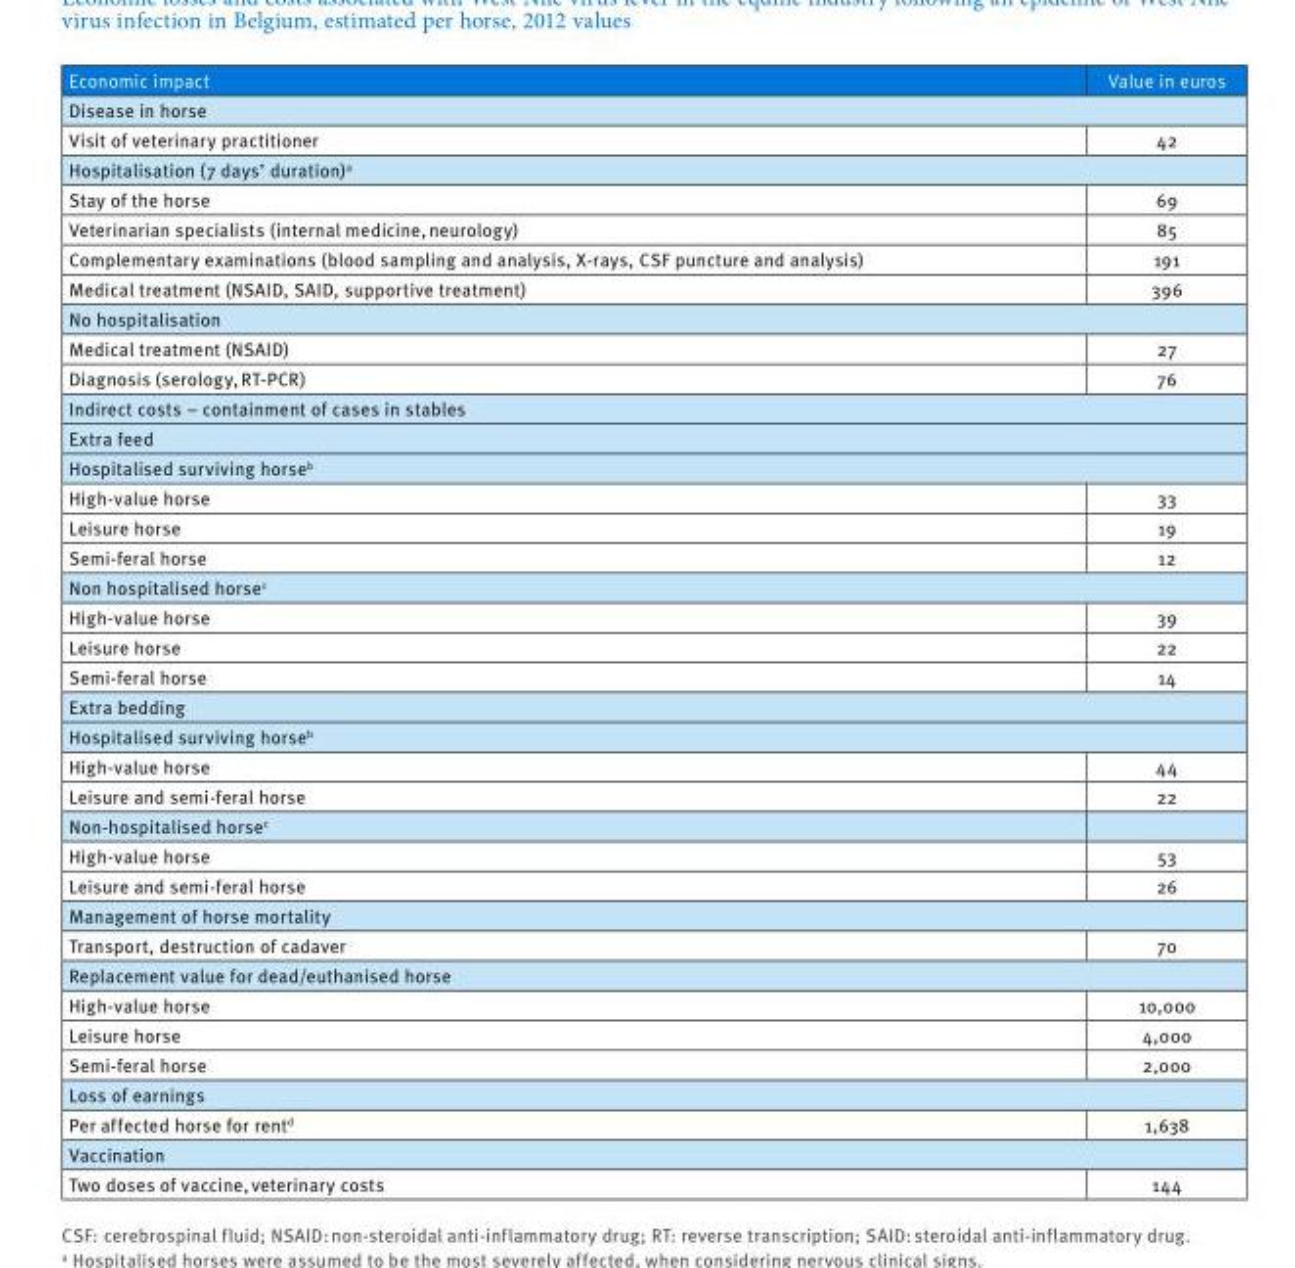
<table><thead><tr><td>Economic impact</td><td>Value in euros</td></tr></thead><tbody><tr><td colspan="2">Disease in horse</td></tr><tr><td>Visit of veterinary practitioner</td><td>42</td></tr><tr><td colspan="2">Hospitalisation (7 days’ duration)<sup>a</sup></td></tr><tr><td>Stay of the horse</td><td>69</td></tr><tr><td>Veterinarian specialists (internal medicine, neurology)</td><td>85</td></tr><tr><td>Complementary examinations (blood sampling and analysis, X-rays, CSF puncture and analysis)</td><td>191</td></tr><tr><td>Medical treatment (NSAID, SAID, supportive treatment)</td><td>396</td></tr><tr><td colspan="2">No hospitalisation</td></tr><tr><td>Medical treatment (NSAID)</td><td>27</td></tr><tr><td>Diagnosis (serology, RT-PCR)</td><td>76</td></tr><tr><td colspan="2">Indirect costs – containment of cases in stables</td></tr><tr><td colspan="2">Extra feed</td></tr><tr><td colspan="2">Hospitalised surviving horse<sup>b</sup></td></tr><tr><td>High-value horse</td><td>33</td></tr><tr><td>Leisure horse</td><td>19</td></tr><tr><td>Semi-feral horse</td><td>12</td></tr><tr><td colspan="2">Non hospitalised horse<sup>c</sup></td></tr><tr><td>High-value horse</td><td>39</td></tr><tr><td>Leisure horse</td><td>22</td></tr><tr><td>Semi-feral horse</td><td>14</td></tr><tr><td colspan="2">Extra bedding</td></tr><tr><td colspan="2">Hospitalised surviving horse<sup>b</sup></td></tr><tr><td>High-value horse</td><td>44</td></tr><tr><td>Leisure and semi-feral horse</td><td>22</td></tr><tr><td colspan="2">Non-hospitalised horse<sup>c</sup></td></tr><tr><td>High-value horse</td><td>53</td></tr><tr><td>Leisure and semi-feral horse</td><td>26</td></tr><tr><td colspan="2">Management of horse mortality</td></tr><tr><td>Transport, destruction of cadaver</td><td>70</td></tr><tr><td colspan="2">Replacement value for dead/euthanised horse</td></tr><tr><td>High-value horse</td><td>10,000</td></tr><tr><td>Leisure horse</td><td>4,000</td></tr><tr><td>Semi-feral horse</td><td>2,000</td></tr><tr><td colspan="2">Loss of earnings</td></tr><tr><td>Per affected horse for rent<sup>d</sup></td><td>1,638</td></tr><tr><td colspan="2">Vaccination</td></tr><tr><td>Two doses of vaccine, veterinary costs</td><td>144</td></tr></tbody></table>